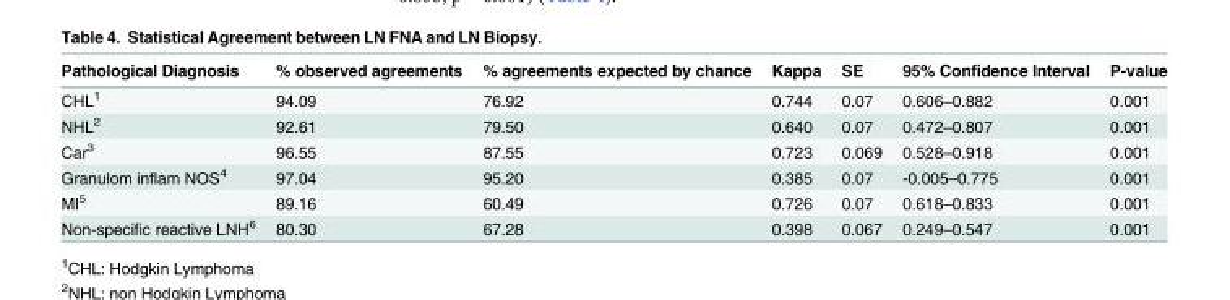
<table><thead><tr><td>Pathological Diagnosis</td><td>% observed agreements</td><td>% agreements expected by chance</td><td>Kappa</td><td>SE</td><td>95% Confidence Interval</td><td>P-value</td></tr></thead><tbody><tr><td>CHL<sup>1</sup></td><td>94.09</td><td>76.92</td><td>0.744</td><td>0.07</td><td>0.606–0.882</td><td>0.001</td></tr><tr><td>NHL<sup>2</sup></td><td>92.61</td><td>79.50</td><td>0.640</td><td>0.07</td><td>0.472–0.807</td><td>0.001</td></tr><tr><td>Car<sup>3</sup></td><td>96.55</td><td>87.55</td><td>0.723</td><td>0.069</td><td>0.528–0.918</td><td>0.001</td></tr><tr><td>Granulom inflam NOS<sup>4</sup></td><td>97.04</td><td>95.20</td><td>0.385</td><td>0.07</td><td>-0.005–0.775</td><td>0.001</td></tr><tr><td>MI<sup>5</sup></td><td>89.16</td><td>60.49</td><td>0.726</td><td>0.07</td><td>0.618–0.833</td><td>0.001</td></tr><tr><td>Non-specific reactive LNH<sup>6</sup></td><td>80.30</td><td>67.28</td><td>0.398</td><td>0.067</td><td>0.249–0.547</td><td>0.001</td></tr></tbody></table>